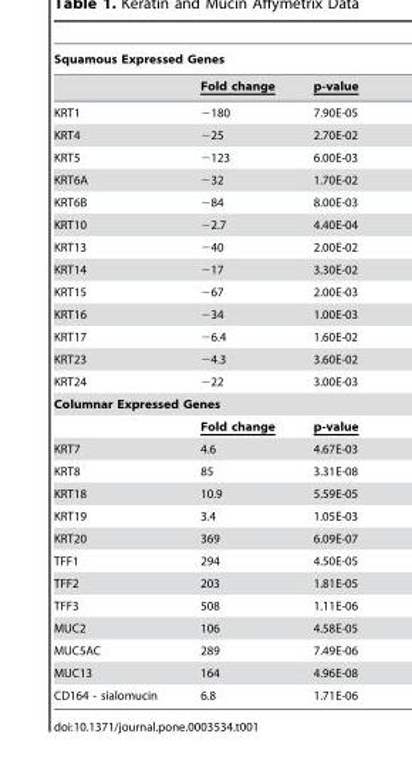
<table><thead><tr><td colspan="3">Squamous Expressed Genes</td></tr><tr><td></td><td>Fold change</td><td>p-value</td></tr></thead><tbody><tr><td>KRT1</td><td>−180</td><td>7.90E-05</td></tr><tr><td>KRT4</td><td>−25</td><td>2.70E-02</td></tr><tr><td>KRT5</td><td>−123</td><td>6.00E-03</td></tr><tr><td>KRT6A</td><td>−32</td><td>1.70E-02</td></tr><tr><td>KRT6B</td><td>−84</td><td>8.00E-03</td></tr><tr><td>KRT10</td><td>−2.7</td><td>4.40E-04</td></tr><tr><td>KRT13</td><td>−40</td><td>2.00E-02</td></tr><tr><td>KRT14</td><td>−17</td><td>3.30E-02</td></tr><tr><td>KRT15</td><td>−67</td><td>2.00E-03</td></tr><tr><td>KRT16</td><td>−34</td><td>1.00E-03</td></tr><tr><td>KRT17</td><td>−6.4</td><td>1.60E-02</td></tr><tr><td>KRT23</td><td>−4.3</td><td>3.60E-02</td></tr><tr><td>KRT24</td><td>−22</td><td>3.00E-03</td></tr><tr><td colspan="3">Columnar Expressed Genes</td></tr><tr><td></td><td>Fold change</td><td>p-value</td></tr><tr><td>KRT7</td><td>4.6</td><td>4.67E-03</td></tr><tr><td>KRT8</td><td>85</td><td>3.31E-08</td></tr><tr><td>KRT18</td><td>10.9</td><td>5.59E-05</td></tr><tr><td>KRT19</td><td>3.4</td><td>1.05E-03</td></tr><tr><td>KRT20</td><td>369</td><td>6.09E-07</td></tr><tr><td>TFF1</td><td>294</td><td>4.50E-05</td></tr><tr><td>TFF2</td><td>203</td><td>1.81E-05</td></tr><tr><td>TFF3</td><td>508</td><td>1.11E-06</td></tr><tr><td>MUC2</td><td>106</td><td>4.58E-05</td></tr><tr><td>MUC5AC</td><td>289</td><td>7.49E-06</td></tr><tr><td>MUC13</td><td>164</td><td>4.96E-08</td></tr><tr><td>CD164 - sialomucin</td><td>6.8</td><td>1.71E-06</td></tr></tbody></table>